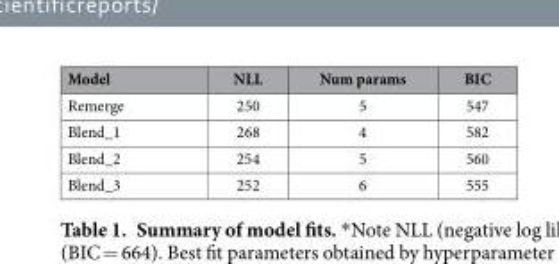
<table><thead><tr><td>Model</td><td>NLL</td><td>Num params</td><td>BIC</td></tr></thead><tbody><tr><td>Remerge</td><td>250</td><td>5</td><td>547</td></tr><tr><td>Blend_1</td><td>268</td><td>4</td><td>582</td></tr><tr><td>Blend_2</td><td>254</td><td>5</td><td>560</td></tr><tr><td>Blend_3</td><td>252</td><td>6</td><td>555</td></tr></tbody></table>